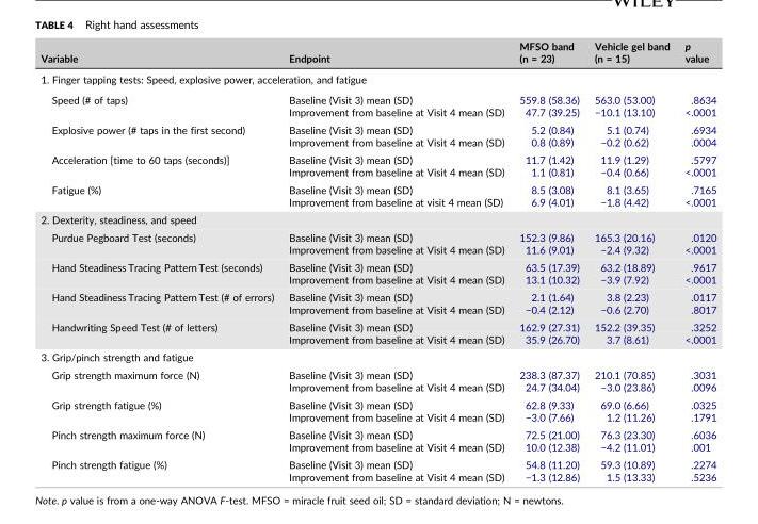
<table><thead><tr><td>Variable</td><td>Endpoint</td><td>MFSO band (n = 23)</td><td>Vehicle gel band (n = 15)</td><td>p value</td></tr></thead><tbody><tr><td colspan="5">1. Finger tapping tests: Speed, explosive power, acceleration, and fatigue</td></tr><tr><td rowspan="2">Speed (# of taps)</td><td>Baseline (Visit 3) mean (SD)</td><td>559.8 (58.36)</td><td>563.0 (53.00)</td><td>.8634</td></tr><tr><td>Improvement from baseline at Visit 4 mean (SD)</td><td>47.7 (39.25)</td><td>−10.1 (13.10)</td><td>&lt;.0001</td></tr><tr><td rowspan="2">Explosive power (# taps in the first second)</td><td>Baseline (Visit 3) mean (SD)</td><td>5.2 (0.84)</td><td>5.1 (0.74)</td><td>.6934</td></tr><tr><td>Improvement from baseline at Visit 4 mean (SD)</td><td>0.8 (0.89)</td><td>−0.2 (0.62)</td><td>.0004</td></tr><tr><td rowspan="2">Acceleration [time to 60 taps (seconds)]</td><td>Baseline (Visit 3) mean (SD)</td><td>11.7 (1.42)</td><td>11.9 (1.29)</td><td>.5797</td></tr><tr><td>Improvement from baseline at Visit 4 mean (SD)</td><td>1.1 (0.81)</td><td>−0.4 (0.66)</td><td>&lt;.0001</td></tr><tr><td rowspan="2">Fatigue (%)</td><td>Baseline (Visit 3) mean (SD)</td><td>8.5 (3.08)</td><td>8.1 (3.65)</td><td>.7165</td></tr><tr><td>Improvement from baseline at visit 4 mean (SD)</td><td>6.9 (4.01)</td><td>−1.8 (4.42)</td><td>&lt;.0001</td></tr><tr><td colspan="5">2. Dexterity, steadiness, and speed</td></tr><tr><td rowspan="2">Purdue Pegboard Test (seconds)</td><td>Baseline (Visit 3) mean (SD)</td><td>152.3 (9.86)</td><td>165.3 (20.16)</td><td>.0120</td></tr><tr><td>Improvement from baseline at Visit 4 mean (SD)</td><td>11.6 (9.01)</td><td>−2.4 (9.32)</td><td>&lt;.0001</td></tr><tr><td rowspan="2">Hand Steadiness Tracing Pattern Test (seconds)</td><td>Baseline (Visit 3) mean (SD)</td><td>63.5 (17.39)</td><td>63.2 (18.89)</td><td>.9617</td></tr><tr><td>Improvement from baseline at Visit 4 mean (SD)</td><td>13.1 (10.32)</td><td>−3.9 (7.92)</td><td>&lt;.0001</td></tr><tr><td rowspan="2">Hand Steadiness Tracing Pattern Test (# of errors)</td><td>Baseline (Visit 3) mean (SD)</td><td>2.1 (1.64)</td><td>3.8 (2.23)</td><td>.0117</td></tr><tr><td>Improvement from baseline at Visit 4 mean (SD)</td><td>−0.4 (2.12)</td><td>−0.6 (2.70)</td><td>.8017</td></tr><tr><td rowspan="2">Handwriting Speed Test (# of letters)</td><td>Baseline (Visit 3) mean (SD)</td><td>162.9 (27.31)</td><td>152.2 (39.35)</td><td>.3252</td></tr><tr><td>Improvement from baseline at Visit 4 mean (SD)</td><td>35.9 (26.70)</td><td>3.7 (8.61)</td><td>&lt;.0001</td></tr><tr><td colspan="5">3. Grip/pinch strength and fatigue</td></tr><tr><td rowspan="2">Grip strength maximum force (N)</td><td>Baseline (Visit 3) mean (SD)</td><td>238.3 (87.37)</td><td>210.1 (70.85)</td><td>.3031</td></tr><tr><td>Improvement from baseline at Visit 4 mean (SD)</td><td>24.7 (34.04)</td><td>−3.0 (23.86)</td><td>.0096</td></tr><tr><td rowspan="2">Grip strength fatigue (%)</td><td>Baseline (Visit 3) mean (SD)</td><td>62.8 (9.33)</td><td>69.0 (6.66)</td><td>.0325</td></tr><tr><td>Improvement from baseline at Visit 4 mean (SD)</td><td>−3.0 (7.66)</td><td>1.2 (11.26)</td><td>.1791</td></tr><tr><td rowspan="2">Pinch strength maximum force (N)</td><td>Baseline (Visit 3) mean (SD)</td><td>72.5 (21.00)</td><td>76.3 (23.30)</td><td>.6036</td></tr><tr><td>Improvement from baseline at Visit 4 mean (SD)</td><td>10.0 (12.38)</td><td>−4.2 (11.01)</td><td>.001</td></tr><tr><td rowspan="2">Pinch strength fatigue (%)</td><td>Baseline (Visit 3) mean (SD)</td><td>54.8 (11.20)</td><td>59.3 (10.89)</td><td>.2274</td></tr><tr><td>Improvement from baseline at Visit 4 mean (SD)</td><td>−1.3 (12.86)</td><td>1.5 (13.33)</td><td>.5236</td></tr></tbody></table>